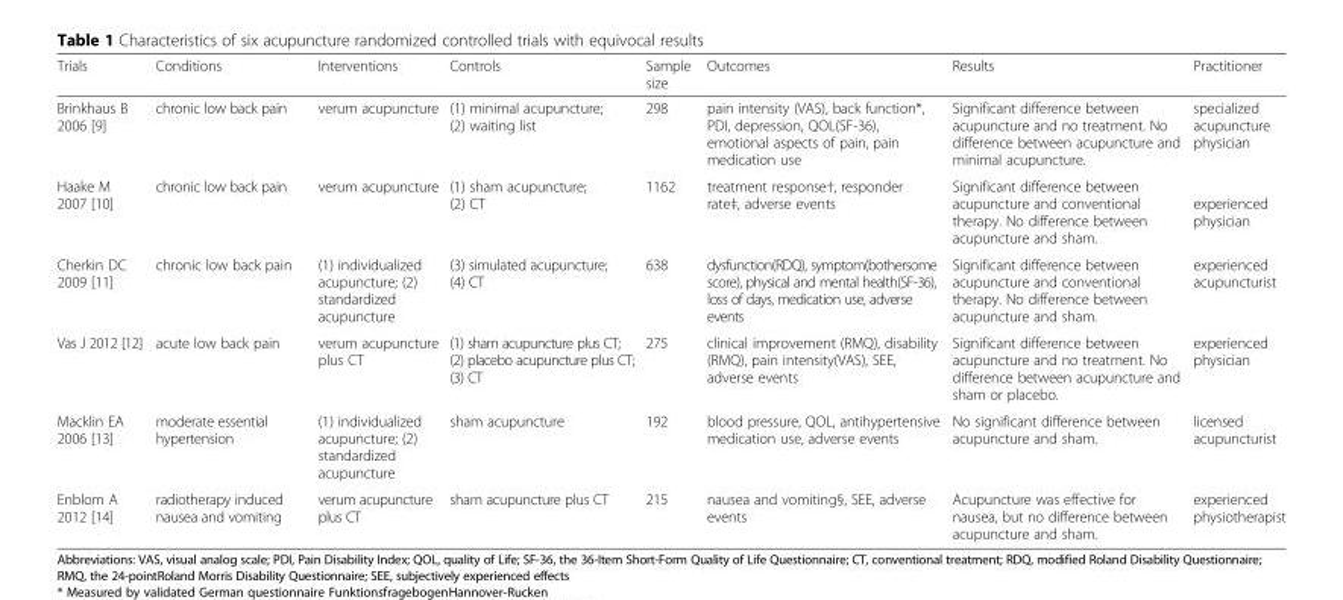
<table><thead><tr><td>Trials</td><td>Conditions</td><td>Interventions</td><td>Controls</td><td>Sample size</td><td>Outcomes</td><td>Results</td><td>Practitioner</td></tr></thead><tbody><tr><td>Brinkhaus B 2006 [9]</td><td>chronic low back pain</td><td>verum acupuncture</td><td>(1) minimal acupuncture; (2) waiting list</td><td>298</td><td>pain intensity (VAS), back function*, PDI, depression, QOL(SF-36), emotional aspects of pain, pain medication use</td><td>Significant difference between acupuncture and no treatment. No difference between acupuncture and minimal acupuncture.</td><td>specialized acupuncture physician</td></tr><tr><td>Haake M 2007 [10]</td><td>chronic low back pain</td><td>verum acupuncture</td><td>(1) sham acupuncture; (2) CT</td><td>1162</td><td>treatment response†, responder rate‡, adverse events</td><td>Significant difference between acupuncture and conventional therapy. No difference between acupuncture and sham.</td><td>experienced physician</td></tr><tr><td>Cherkin DC 2009 [11]</td><td>chronic low back pain</td><td>(1) individualized acupuncture; (2) standardized acupuncture</td><td>(3) simulated acupuncture; (4) CT</td><td>638</td><td>dysfunction(RDQ), symptom(bothersome score), physical and mental health(SF-36), loss of days, medication use, adverse events</td><td>Significant difference between acupuncture and conventional therapy. No difference between acupuncture and sham.</td><td>experienced acupuncturist</td></tr><tr><td>Vas J 2012 [12]</td><td>acute low back pain</td><td>verum acupuncture plus CT</td><td>(1) sham acupuncture plus CT; (2) placebo acupuncture plus CT; (3) CT</td><td>275</td><td>clinical improvement (RMQ), disability (RMQ), pain intensity(VAS), SEE, adverse events</td><td>Significant difference between acupuncture and no treatment. No difference between acupuncture and sham or placebo.</td><td>experienced physician</td></tr><tr><td>Macklin EA 2006 [13]</td><td>moderate essential hypertension</td><td>(1) individualized acupuncture; (2) standardized acupuncture</td><td>sham acupuncture</td><td>192</td><td>blood pressure, QOL, antihypertensive medication use, adverse events</td><td>No significant difference between acupuncture and sham.</td><td>licensed acupuncturist</td></tr><tr><td>Enblom A 2012 [14]</td><td>radiotherapy induced nausea and vomiting</td><td>verum acupuncture plus CT</td><td>sham acupuncture plus CT</td><td>215</td><td>nausea and vomiting§, SEE, adverse events</td><td>Acupuncture was effective for nausea, but no difference between acupuncture and sham.</td><td>experienced physiotherapist</td></tr></tbody></table>